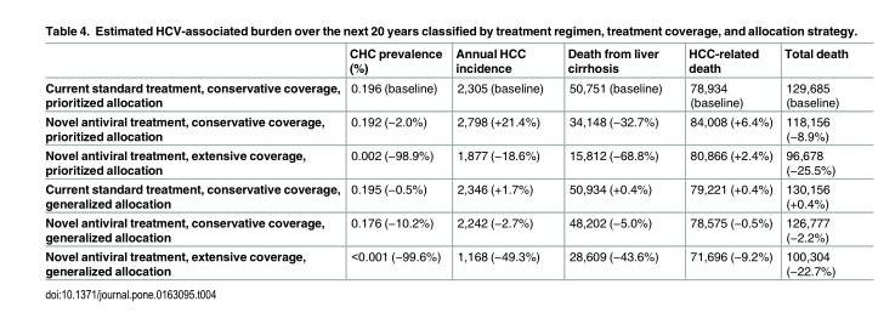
<table><thead><tr><td></td><td>CHC prevalence (%)</td><td>Annual HCC incidence</td><td>Death from liver cirrhosis</td><td>HCC-related death</td><td>Total death</td></tr></thead><tbody><tr><td>Current standard treatment, conservative coverage, prioritized allocation</td><td>0.196 (baseline)</td><td>2,305 (baseline)</td><td>50,751 (baseline)</td><td>78,934 (baseline)</td><td>129,685 (baseline)</td></tr><tr><td>Novel antiviral treatment, conservative coverage, prioritized allocation</td><td>0.192 (−2.0%)</td><td>2,798 (+21.4%)</td><td>34,148 (−32.7%)</td><td>84,008 (+6.4%)</td><td>118,156 (−8.9%)</td></tr><tr><td>Novel antiviral treatment, extensive coverage, prioritized allocation</td><td>0.002 (−98.9%)</td><td>1,877 (−18.6%)</td><td>15,812 (−68.8%)</td><td>80,866 (+2.4%)</td><td>96,678 (−25.5%)</td></tr><tr><td>Current standard treatment, conservative coverage, generalized allocation</td><td>0.195 (−0.5%)</td><td>2,346 (+1.7%)</td><td>50,934 (+0.4%)</td><td>79,221 (+0.4%)</td><td>130,156 (+0.4%)</td></tr><tr><td>Novel antiviral treatment, conservative coverage, generalized allocation</td><td>0.176 (−10.2%)</td><td>2,242 (−2.7%)</td><td>48,202 (−5.0%)</td><td>78,575 (−0.5%)</td><td>126,777 (−2.2%)</td></tr><tr><td>Novel antiviral treatment, extensive coverage, generalized allocation</td><td>&lt;0.001 (−99.6%)</td><td>1,168 (−49.3%)</td><td>28,609 (−43.6%)</td><td>71,696 (−9.2%)</td><td>100,304 (−22.7%)</td></tr></tbody></table>